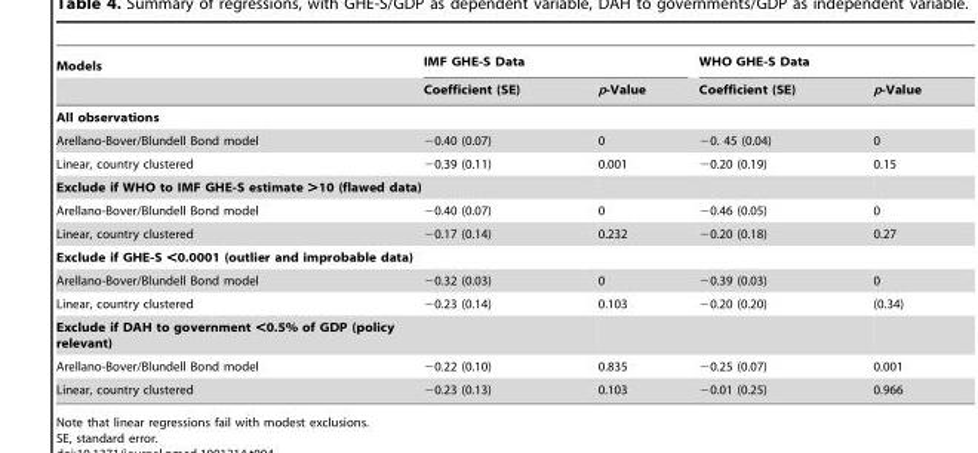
<table><thead><tr><td rowspan="2">Models</td><td colspan="2">IMF GHE-S Data</td><td colspan="2">WHO GHE-S Data</td></tr><tr><td>Coefficient (SE)</td><td>p-Value</td><td>Coefficient (SE)</td><td>p-Value</td></tr></thead><tbody><tr><td colspan="5">All observations</td></tr><tr><td>Arellano-Bover/Blundell Bond model</td><td>−0.40 (0.07)</td><td>0</td><td>−0. 45 (0.04)</td><td>0</td></tr><tr><td>Linear, country clustered</td><td>−0.39 (0.11)</td><td>0.001</td><td>−0.20 (0.19)</td><td>0.15</td></tr><tr><td colspan="5">Exclude if WHO to IMF GHE-S estimate &gt;10 (flawed data)</td></tr><tr><td>Arellano-Bover/Blundell Bond model</td><td>−0.40 (0.07)</td><td>0</td><td>−0.46 (0.05)</td><td>0</td></tr><tr><td>Linear, country clustered</td><td>−0.17 (0.14)</td><td>0.232</td><td>−0.20 (0.18)</td><td>0.27</td></tr><tr><td colspan="5">Exclude if GHE-S &lt;0.0001 (outlier and improbable data)</td></tr><tr><td>Arellano-Bover/Blundell Bond model</td><td>−0.32 (0.03)</td><td>0</td><td>−0.39 (0.03)</td><td>0</td></tr><tr><td>Linear, country clustered</td><td>−0.23 (0.14)</td><td>0.103</td><td>−0.20 (0.20)</td><td>(0.34)</td></tr><tr><td colspan="5">Exclude if DAH to government &lt;0.5% of GDP (policy relevant)</td></tr><tr><td>Arellano-Bover/Blundell Bond model</td><td>−0.22 (0.10)</td><td>0.835</td><td>−0.25 (0.07)</td><td>0.001</td></tr><tr><td>Linear, country clustered</td><td>−0.23 (0.13)</td><td>0.103</td><td>−0.01 (0.25)</td><td>0.966</td></tr></tbody></table>